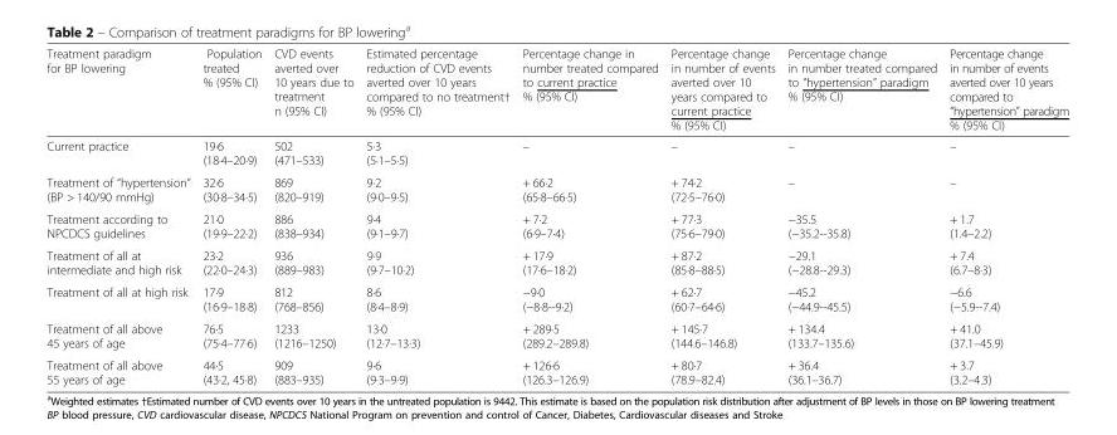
<table><thead><tr><td>Treatment paradigm for BP lowering</td><td>Population treated % (95% CI)</td><td>CVD events averted over 10 years due to treatment n (95% CI)</td><td>Estimated percentage reduction of CVD events averted over 10 years compared to no treatment† % (95% CI)</td><td>Percentage change in number treated compared to current practice % (95% CI)</td><td>Percentage change in number of events averted over 10 years compared to current practice % (95% CI)</td><td>Percentage change in number treated compared to “hypertension” paradigm % (95% CI)</td><td>Percentage change in number of events averted over 10 years compared to “hypertension” paradigm % (95% CI)</td></tr></thead><tbody><tr><td>Current practice</td><td>19·6 (18·4–20·9)</td><td>502 (471–533)</td><td>5·3 (5·1–5·5)</td><td>–</td><td>–</td><td>–</td><td>–</td></tr><tr><td>Treatment of “hypertension” (BP &gt; 140/90 mmHg)</td><td>32·6 (30·8–34·5)</td><td>869 (820–919)</td><td>9·2 (9·0–9·5)</td><td>+ 66·2 (65·8–66·5)</td><td>+ 74·2 (72·5–76·0)</td><td>–</td><td>–</td></tr><tr><td>Treatment according to NPCDCS guidelines</td><td>21·0 (19·9–22·2)</td><td>886 (838–934)</td><td>9·4 (9·1–9·7)</td><td>+ 7·2 (6·9–7·4)</td><td>+ 77·3 (75·6–79·0)</td><td>−35.5 (−35.2--35.8)</td><td>+ 1.7 (1.4–2.2)</td></tr><tr><td>Treatment of all at intermediate and high risk</td><td>23·2 (22·0–24·3)</td><td>936 (889–983)</td><td>9·9 (9·7–10·2)</td><td>+ 17·9 (17·6–18·2)</td><td>+ 87·2 (85·8–88·5)</td><td>−29.1 (−28.8--29.3)</td><td>+ 7.4 (6.7–8·3)</td></tr><tr><td>Treatment of all at high risk</td><td>17·9 (16·9–18·8)</td><td>812 (768–856)</td><td>8·6 (8·4–8·9)</td><td>−9·0 (−8·8--9·2)</td><td>+ 62·7 (60·7–64·6)</td><td>−45.2 (−44.9--45.5)</td><td>−6.6 (−5.9--7.4)</td></tr><tr><td>Treatment of all above 45 years of age</td><td>76·5 (75·4–77·6)</td><td>1233 (1216–1250)</td><td>13·0 (12·7–13·3)</td><td>+ 289·5 (289.2–289.8)</td><td>+ 145·7 (144.6–146.8)</td><td>+ 134.4 (133.7–135.6)</td><td>+ 41.0 (37.1–45.9)</td></tr><tr><td>Treatment of all above 55 years of age</td><td>44·5 (43·2, 45·8)</td><td>909 (883–935)</td><td>9·6 (9·3–9·9)</td><td>+ 126·6 (126.3–126.9)</td><td>+ 80·7 (78.9–82.4)</td><td>+ 36.4 (36.1–36.7)</td><td>+ 3.7 (3.2–4.3)</td></tr></tbody></table>